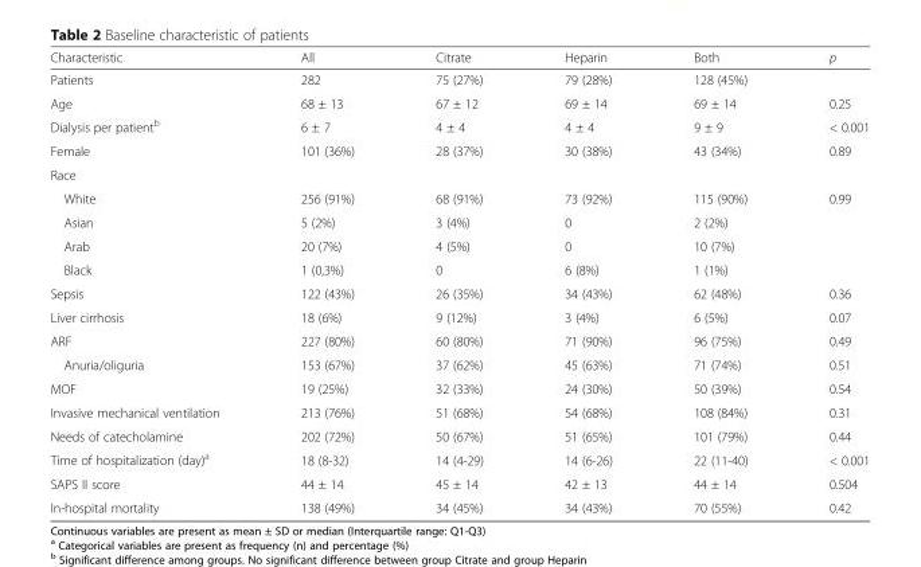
<table><thead><tr><td>Characteristic</td><td>All</td><td>Citrate</td><td>Heparin</td><td>Both</td><td>p</td></tr></thead><tbody><tr><td>Patients</td><td>282</td><td>75 (27%)</td><td>79 (28%)</td><td>128 (45%)</td><td></td></tr><tr><td>Age</td><td>68 ± 13</td><td>67 ± 12</td><td>69 ± 14</td><td>69 ± 14</td><td>0.25</td></tr><tr><td>Dialysis per patient<sup>b</sup></td><td>6 ± 7</td><td>4 ± 4</td><td>4 ± 4</td><td>9 ± 9</td><td>&lt; 0.001</td></tr><tr><td>Female</td><td>101 (36%)</td><td>28 (37%)</td><td>30 (38%)</td><td>43 (34%)</td><td>0.89</td></tr><tr><td colspan="6">Race</td></tr><tr><td>White</td><td>256 (91%)</td><td>68 (91%)</td><td>73 (92%)</td><td>115 (90%)</td><td>0.99</td></tr><tr><td>Asian</td><td>5 (2%)</td><td>3 (4%)</td><td>0</td><td>2 (2%)</td><td></td></tr><tr><td>Arab</td><td>20 (7%)</td><td>4 (5%)</td><td>0</td><td>10 (7%)</td><td></td></tr><tr><td>Black</td><td>1 (0,3%)</td><td>0</td><td>6 (8%)</td><td>1 (1%)</td><td></td></tr><tr><td>Sepsis</td><td>122 (43%)</td><td>26 (35%)</td><td>34 (43%)</td><td>62 (48%)</td><td>0.36</td></tr><tr><td>Liver cirrhosis</td><td>18 (6%)</td><td>9 (12%)</td><td>3 (4%)</td><td>6 (5%)</td><td>0.07</td></tr><tr><td>ARF</td><td>227 (80%)</td><td>60 (80%)</td><td>71 (90%)</td><td>96 (75%)</td><td>0.49</td></tr><tr><td>Anuria/oliguria</td><td>153 (67%)</td><td>37 (62%)</td><td>45 (63%)</td><td>71 (74%)</td><td>0.51</td></tr><tr><td>MOF</td><td>19 (25%)</td><td>32 (33%)</td><td>24 (30%)</td><td>50 (39%)</td><td>0.54</td></tr><tr><td>Invasive mechanical ventilation</td><td>213 (76%)</td><td>51 (68%)</td><td>54 (68%)</td><td>108 (84%)</td><td>0.31</td></tr><tr><td>Needs of catecholamine</td><td>202 (72%)</td><td>50 (67%)</td><td>51 (65%)</td><td>101 (79%)</td><td>0.44</td></tr><tr><td>Time of hospitalization (day)<sup>a</sup></td><td>18 (8-32)</td><td>14 (4-29)</td><td>14 (6-26)</td><td>22 (11-40)</td><td>&lt; 0.001</td></tr><tr><td>SAPS II score</td><td>44 ± 14</td><td>45 ± 14</td><td>42 ± 13</td><td>44 ± 14</td><td>0.504</td></tr><tr><td>In-hospital mortality</td><td>138 (49%)</td><td>34 (45%)</td><td>34 (43%)</td><td>70 (55%)</td><td>0.42</td></tr></tbody></table>